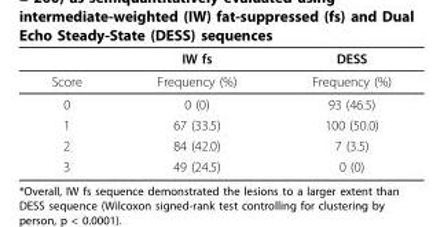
<table><thead><tr><td></td><td>IW fs</td><td>DESS</td></tr></thead><tbody><tr><td>Score</td><td>Frequency (%)</td><td>Frequency (%)</td></tr><tr><td>0</td><td>0 (0)</td><td>93 (46.5)</td></tr><tr><td>1</td><td>67 (33.5)</td><td>100 (50.0)</td></tr><tr><td>2</td><td>84 (42.0)</td><td>7 (3.5)</td></tr><tr><td>3</td><td>49 (24.5)</td><td>0 (0)</td></tr></tbody></table>